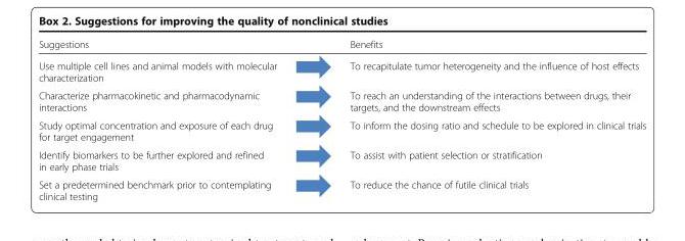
<table><thead><tr><td>Suggestions</td><td>Benefits</td></tr></thead><tbody><tr><td>Use multiple cell lines and animal models with molecular characterization</td><td>To recapitulate tumor heterogeneity and the influence of host effects</td></tr><tr><td>Characterize pharmacokinetic and pharmacodynamic interactions</td><td>To reach an understanding of the interactions between drugs, their targets, and the downstream effects</td></tr><tr><td>Study optimal concentration and exposure of each drug for target engagement</td><td>To inform the dosing ratio and schedule to be explored in clinical trials</td></tr><tr><td>Identify biomarkers to be further explored and refined in early phase trials</td><td>To assist with patient selection or stratification</td></tr><tr><td>Set a predetermined benchmark prior to contemplating clinical testing</td><td>To reduce the chance of futile clinical trials</td></tr></tbody></table>